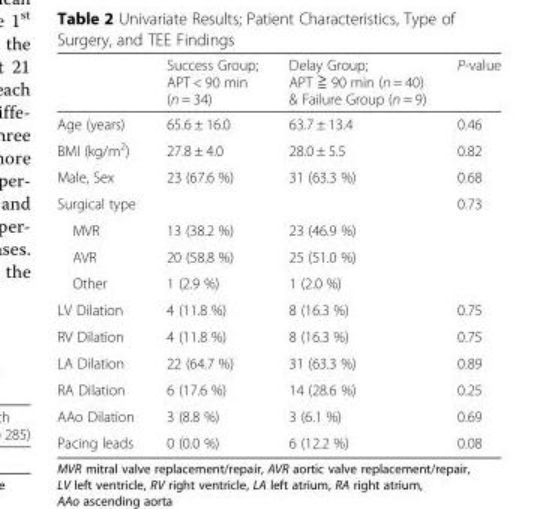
<table><thead><tr><td></td><td>Success Group; APT &lt; 90 min (n = 34)</td><td>Delay Group; APT ≧ 90 min (n = 40) &amp; Failure Group (n = 9)</td><td>P-value</td></tr></thead><tbody><tr><td>Age (years)</td><td>65.6 ± 16.0</td><td>63.7 ± 13.4</td><td>0.46</td></tr><tr><td>BMI (kg/m<sup>2</sup>)</td><td>27.8 ± 4.0</td><td>28.0 ± 5.5</td><td>0.82</td></tr><tr><td>Male, Sex</td><td>23 (67.6 %)</td><td>31 (63.3 %)</td><td>0.68</td></tr><tr><td>Surgical type</td><td></td><td></td><td>0.73</td></tr><tr><td>MVR</td><td>13 (38.2 %)</td><td>23 (46.9 %)</td><td></td></tr><tr><td>AVR</td><td>20 (58.8 %)</td><td>25 (51.0 %)</td><td></td></tr><tr><td>Other</td><td>1 (2.9 %)</td><td>1 (2.0 %)</td><td></td></tr><tr><td>LV Dilation</td><td>4 (11.8 %)</td><td>8 (16.3 %)</td><td>0.75</td></tr><tr><td>RV Dilation</td><td>4 (11.8 %)</td><td>8 (16.3 %)</td><td>0.75</td></tr><tr><td>LA Dilation</td><td>22 (64.7 %)</td><td>31 (63.3 %)</td><td>0.89</td></tr><tr><td>RA Dilation</td><td>6 (17.6 %)</td><td>14 (28.6 %)</td><td>0.25</td></tr><tr><td>AAo Dilation</td><td>3 (8.8 %)</td><td>3 (6.1 %)</td><td>0.69</td></tr><tr><td>Pacing leads</td><td>0 (0.0 %)</td><td>6 (12.2 %)</td><td>0.08</td></tr></tbody></table>